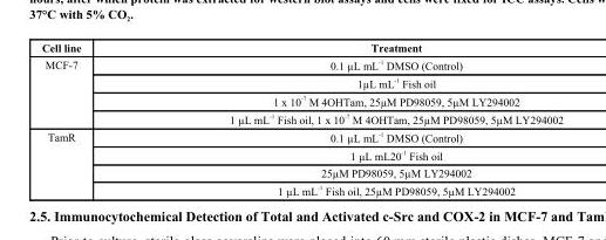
<table><thead><tr><td>Cell line</td><td>Treatment</td></tr></thead><tbody><tr><td rowspan="4">MCF-7</td><td>0.1 µL mL <sup>-1</sup> DMSO (Control)</td></tr><tr><td>1µL mL <sup>-1</sup> Fish oil</td></tr><tr><td>1 x 10 <sup>-7</sup> M 4OHTam, 25µM PD98059, 5µM LY294002</td></tr><tr><td>1 µL mL <sup>-1</sup> Fish oil, 1 x 10 <sup>-7</sup> M 4OHTam, 25µM PD98059, 5µM LY294002</td></tr><tr><td rowspan="4">TamR</td><td>0.1 µL mL <sup>-1</sup> DMSO (Control)</td></tr><tr><td>1 µL mL20 <sup>-1</sup> Fish oil</td></tr><tr><td>25µM PD98059, 5µM LY294002</td></tr><tr><td>1 µL mL <sup>-1</sup> Fish oil, 25µM PD98059, 5µM LY294002</td></tr></tbody></table>